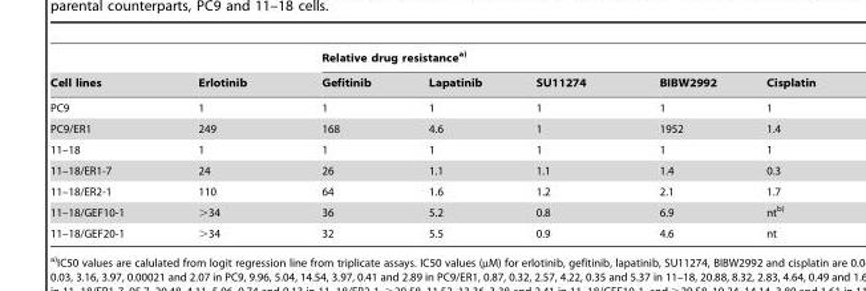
<table><thead><tr><td rowspan="2">Cell lines</td><td rowspan="2">Erlotinib</td><td colspan="5">Relative drug resistancea)</td></tr><tr><td>Gefitinib</td><td>Lapatinib</td><td>SU11274</td><td>BIBW2992</td><td>Cisplatin</td></tr></thead><tbody><tr><td>PC9</td><td>1</td><td>1</td><td>1</td><td>1</td><td>1</td><td>1</td></tr><tr><td>PC9/ER1</td><td>249</td><td>168</td><td>4.6</td><td>1</td><td>1952</td><td>1.4</td></tr><tr><td>11–18</td><td>1</td><td>1</td><td>1</td><td>1</td><td>1</td><td>1</td></tr><tr><td>11–18/ER1-7</td><td>24</td><td>26</td><td>1.1</td><td>1.1</td><td>1.4</td><td>0.3</td></tr><tr><td>11–18/ER2-1</td><td>110</td><td>64</td><td>1.6</td><td>1.2</td><td>2.1</td><td>1.7</td></tr><tr><td>11–18/GEF10-1</td><td>&gt;34</td><td>36</td><td>5.2</td><td>0.8</td><td>6.9</td><td>ntb)</td></tr><tr><td>11–18/GEF20-1</td><td>&gt;34</td><td>32</td><td>5.5</td><td>0.9</td><td>4.6</td><td>nt</td></tr></tbody></table>